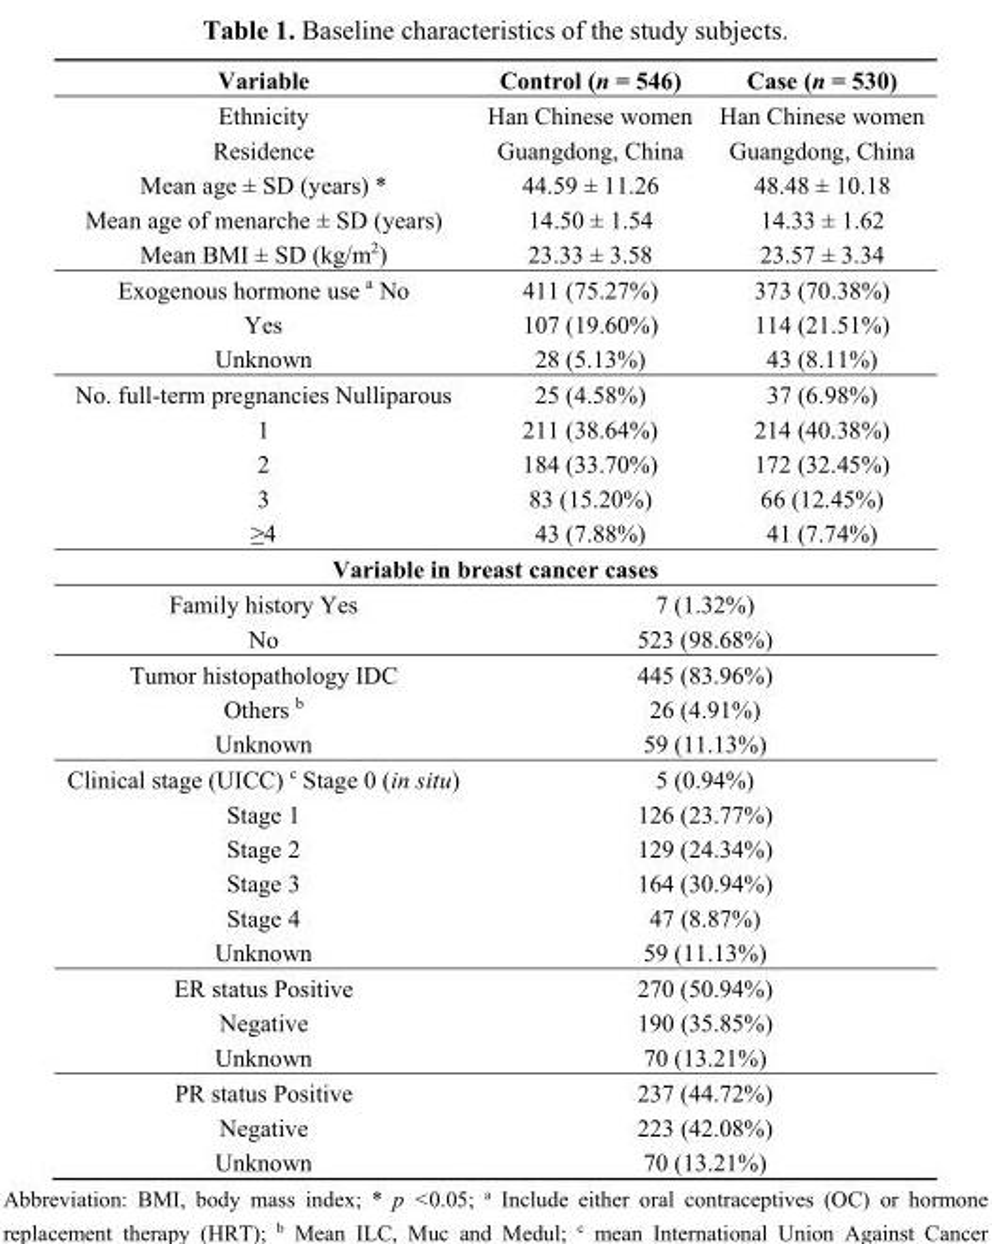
<table><thead><tr><td>Variable</td><td>Control (n = 546)</td><td>Case (n = 530)</td></tr></thead><tbody><tr><td>Ethnicity</td><td>Han Chinese women</td><td>Han Chinese women</td></tr><tr><td>Residence</td><td>Guangdong, China</td><td>Guangdong, China</td></tr><tr><td>Mean age ± SD (years) *</td><td>44.59 ± 11.26</td><td>48.48 ± 10.18</td></tr><tr><td>Mean age of menarche ± SD (years)</td><td>14.50 ± 1.54</td><td>14.33 ± 1.62</td></tr><tr><td>Mean BMI ± SD (kg/m<sup>2</sup>)</td><td>23.33 ± 3.58</td><td>23.57 ± 3.34</td></tr><tr><td>Exogenous hormone use <sup>a</sup> No</td><td>411 (75.27%)</td><td>373 (70.38%)</td></tr><tr><td>Yes</td><td>107 (19.60%)</td><td>114 (21.51%)</td></tr><tr><td>Unknown</td><td>28 (5.13%)</td><td>43 (8.11%)</td></tr><tr><td>No. full-term pregnancies Nulliparous</td><td>25 (4.58%)</td><td>37 (6.98%)</td></tr><tr><td>1</td><td>211 (38.64%)</td><td>214 (40.38%)</td></tr><tr><td>2</td><td>184 (33.70%)</td><td>172 (32.45%)</td></tr><tr><td>3</td><td>83 (15.20%)</td><td>66 (12.45%)</td></tr><tr><td>≥4</td><td>43 (7.88%)</td><td>41 (7.74%)</td></tr><tr><td colspan="3">Variable in breast cancer cases</td></tr><tr><td>Family history Yes</td><td colspan="2">7 (1.32%)</td></tr><tr><td>No</td><td colspan="2">523 (98.68%)</td></tr><tr><td>Tumor histopathology IDC</td><td colspan="2">445 (83.96%)</td></tr><tr><td>Others <sup>b</sup></td><td colspan="2">26 (4.91%)</td></tr><tr><td>Unknown</td><td colspan="2">59 (11.13%)</td></tr><tr><td>Clinical stage (UICC) <sup>c</sup> Stage 0 (in situ)</td><td colspan="2">5 (0.94%)</td></tr><tr><td>Stage 1</td><td colspan="2">126 (23.77%)</td></tr><tr><td>Stage 2</td><td colspan="2">129 (24.34%)</td></tr><tr><td>Stage 3</td><td colspan="2">164 (30.94%)</td></tr><tr><td>Stage 4</td><td colspan="2">47 (8.87%)</td></tr><tr><td>Unknown</td><td colspan="2">59 (11.13%)</td></tr><tr><td>ER status Positive</td><td colspan="2">270 (50.94%)</td></tr><tr><td>Negative</td><td colspan="2">190 (35.85%)</td></tr><tr><td>Unknown</td><td colspan="2">70 (13.21%)</td></tr><tr><td>PR status Positive</td><td colspan="2">237 (44.72%)</td></tr><tr><td>Negative</td><td colspan="2">223 (42.08%)</td></tr><tr><td>Unknown</td><td colspan="2">70 (13.21%)</td></tr></tbody></table>